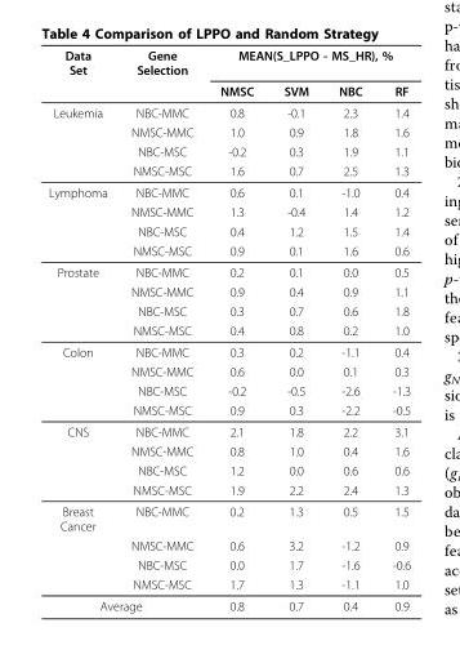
<table><thead><tr><td rowspan="2">Data Set</td><td rowspan="2">Gene Selection</td><td colspan="4">MEAN(S_LPPO - MS_HR), %</td></tr><tr><td>NMSC</td><td>SVM</td><td>NBC</td><td>RF</td></tr></thead><tbody><tr><td rowspan="4">Leukemia</td><td>NBC-MMC</td><td>0.8</td><td>-0.1</td><td>2.3</td><td>1.4</td></tr><tr><td>NMSC-MMC</td><td>1.0</td><td>0.9</td><td>1.8</td><td>1.6</td></tr><tr><td>NBC-MSC</td><td>-0.2</td><td>0.3</td><td>1.9</td><td>1.1</td></tr><tr><td>NMSC-MSC</td><td>1.6</td><td>0.7</td><td>2.5</td><td>1.3</td></tr><tr><td rowspan="4">Lymphoma</td><td>NBC-MMC</td><td>0.6</td><td>0.1</td><td>-1.0</td><td>0.4</td></tr><tr><td>NMSC-MMC</td><td>1.3</td><td>-0.4</td><td>1.4</td><td>1.2</td></tr><tr><td>NBC-MSC</td><td>0.4</td><td>1.2</td><td>1.5</td><td>1.4</td></tr><tr><td>NMSC-MSC</td><td>0.9</td><td>0.1</td><td>1.6</td><td>0.6</td></tr><tr><td rowspan="4">Prostate</td><td>NBC-MMC</td><td>0.2</td><td>0.1</td><td>0.0</td><td>0.5</td></tr><tr><td>NMSC-MMC</td><td>0.9</td><td>0.4</td><td>0.9</td><td>1.1</td></tr><tr><td>NBC-MSC</td><td>0.3</td><td>0.7</td><td>0.6</td><td>1.8</td></tr><tr><td>NMSC-MSC</td><td>0.4</td><td>0.8</td><td>0.2</td><td>1.0</td></tr><tr><td rowspan="4">Colon</td><td>NBC-MMC</td><td>0.3</td><td>0.2</td><td>-1.1</td><td>0.4</td></tr><tr><td>NMSC-MMC</td><td>0.6</td><td>0.0</td><td>0.1</td><td>0.3</td></tr><tr><td>NBC-MSC</td><td>-0.2</td><td>-0.5</td><td>-2.6</td><td>-1.3</td></tr><tr><td>NMSC-MSC</td><td>0.9</td><td>0.3</td><td>-2.2</td><td>-0.5</td></tr><tr><td rowspan="4">CNS</td><td>NBC-MMC</td><td>2.1</td><td>1.8</td><td>2.2</td><td>3.1</td></tr><tr><td>NMSC-MMC</td><td>0.8</td><td>1.0</td><td>0.4</td><td>1.6</td></tr><tr><td>NBC-MSC</td><td>1.2</td><td>0.0</td><td>0.6</td><td>0.6</td></tr><tr><td>NMSC-MSC</td><td>1.9</td><td>2.2</td><td>2.4</td><td>1.3</td></tr><tr><td rowspan="4">Breast Cancer</td><td>NBC-MMC</td><td>0.2</td><td>1.3</td><td>0.5</td><td>1.5</td></tr><tr><td>NMSC-MMC</td><td>0.6</td><td>3.2</td><td>-1.2</td><td>0.9</td></tr><tr><td>NBC-MSC</td><td>0.0</td><td>1.7</td><td>-1.6</td><td>-0.6</td></tr><tr><td>NMSC-MSC</td><td>1.7</td><td>1.3</td><td>-1.1</td><td>1.0</td></tr><tr><td colspan="2">Average</td><td>0.8</td><td>0.7</td><td>0.4</td><td>0.9</td></tr></tbody></table>